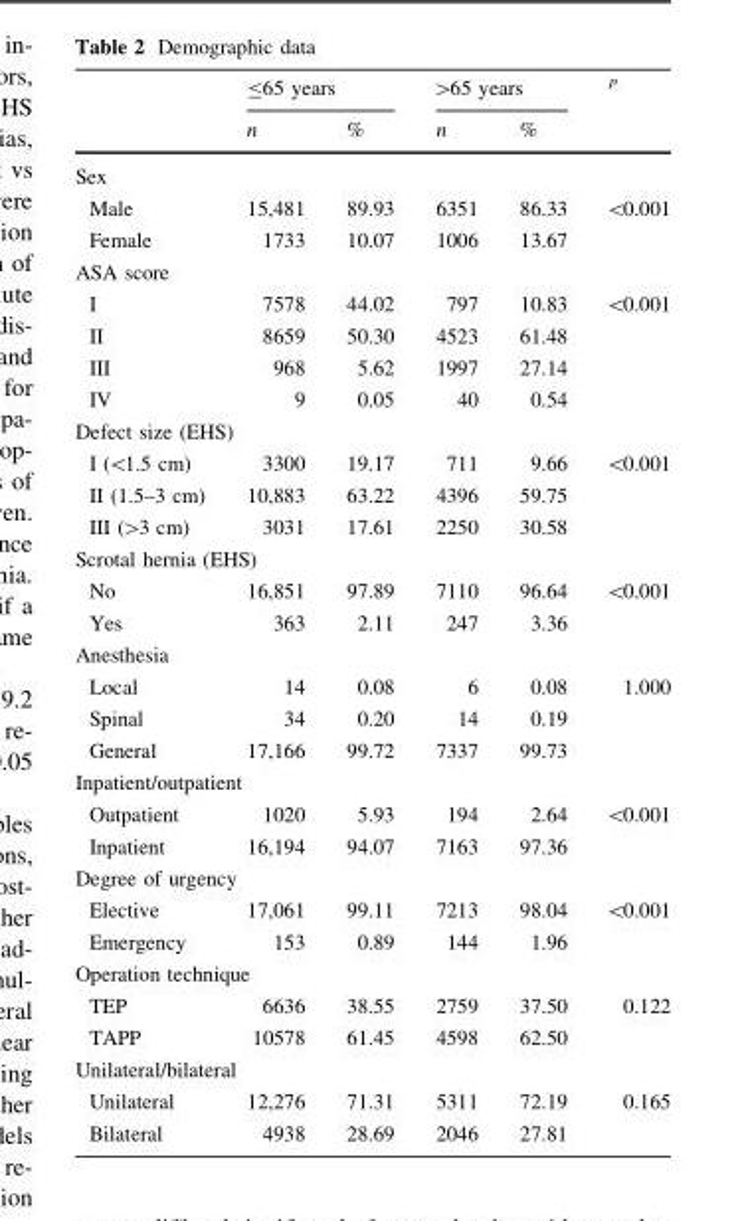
<table><thead><tr><td rowspan="2"></td><td colspan="2">≤65 years</td><td colspan="2">&gt;65 years</td><td rowspan="2"><sup>p</sup></td></tr><tr><td>n</td><td>%</td><td>n</td><td>%</td></tr></thead><tbody><tr><td colspan="6">Sex</td></tr><tr><td>Male</td><td>15,481</td><td>89.93</td><td>6351</td><td>86.33</td><td>&lt;0.001</td></tr><tr><td>Female</td><td>1733</td><td>10.07</td><td>1006</td><td>13.67</td><td></td></tr><tr><td colspan="6">ASA score</td></tr><tr><td>I</td><td>7578</td><td>44.02</td><td>797</td><td>10.83</td><td>&lt;0.001</td></tr><tr><td>II</td><td>8659</td><td>50.30</td><td>4523</td><td>61.48</td><td></td></tr><tr><td>III</td><td>968</td><td>5.62</td><td>1997</td><td>27.14</td><td></td></tr><tr><td>IV</td><td>9</td><td>0.05</td><td>40</td><td>0.54</td><td></td></tr><tr><td colspan="6">Defect size (EHS)</td></tr><tr><td>I (&lt;1.5 cm)</td><td>3300</td><td>19.17</td><td>711</td><td>9.66</td><td>&lt;0.001</td></tr><tr><td>II (1.5–3 cm)</td><td>10,883</td><td>63.22</td><td>4396</td><td>59.75</td><td></td></tr><tr><td>III (&gt;3 cm)</td><td>3031</td><td>17.61</td><td>2250</td><td>30.58</td><td></td></tr><tr><td colspan="6">Scrotal hernia (EHS)</td></tr><tr><td>No</td><td>16,851</td><td>97.89</td><td>7110</td><td>96.64</td><td>&lt;0.001</td></tr><tr><td>Yes</td><td>363</td><td>2.11</td><td>247</td><td>3.36</td><td></td></tr><tr><td colspan="6">Anesthesia</td></tr><tr><td>Local</td><td>14</td><td>0.08</td><td>6</td><td>0.08</td><td>1.000</td></tr><tr><td>Spinal</td><td>34</td><td>0.20</td><td>14</td><td>0.19</td><td></td></tr><tr><td>General</td><td>17,166</td><td>99.72</td><td>7337</td><td>99.73</td><td></td></tr><tr><td colspan="6">Inpatient/outpatient</td></tr><tr><td>Outpatient</td><td>1020</td><td>5.93</td><td>194</td><td>2.64</td><td>&lt;0.001</td></tr><tr><td>Inpatient</td><td>16,194</td><td>94.07</td><td>7163</td><td>97.36</td><td></td></tr><tr><td colspan="6">Degree of urgency</td></tr><tr><td>Elective</td><td>17,061</td><td>99.11</td><td>7213</td><td>98.04</td><td>&lt;0.001</td></tr><tr><td>Emergency</td><td>153</td><td>0.89</td><td>144</td><td>1.96</td><td></td></tr><tr><td colspan="6">Operation technique</td></tr><tr><td>TEP</td><td>6636</td><td>38.55</td><td>2759</td><td>37.50</td><td>0.122</td></tr><tr><td>TAPP</td><td>10578</td><td>61.45</td><td>4598</td><td>62.50</td><td></td></tr><tr><td colspan="6">Unilateral/bilateral</td></tr><tr><td>Unilateral</td><td>12,276</td><td>71.31</td><td>5311</td><td>72.19</td><td>0.165</td></tr><tr><td>Bilateral</td><td>4938</td><td>28.69</td><td>2046</td><td>27.81</td><td></td></tr></tbody></table>